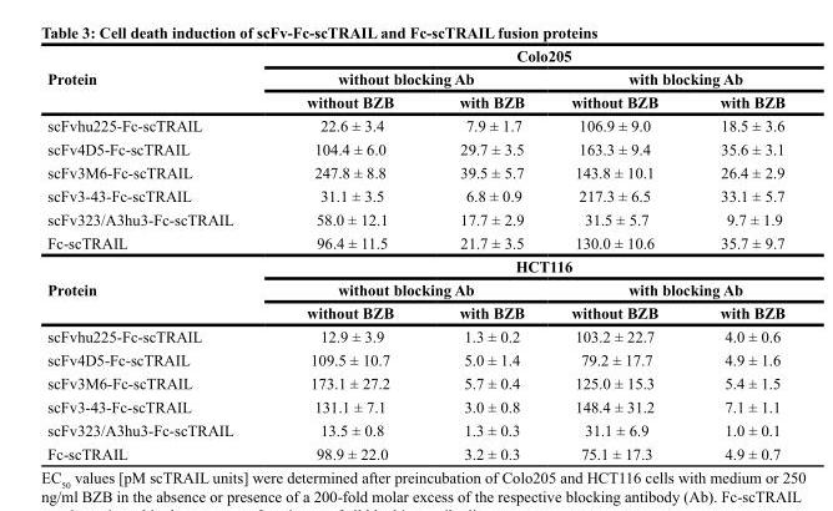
<table><thead><tr><td rowspan="3">Protein</td><td colspan="4">Colo205</td></tr><tr><td colspan="2">without blocking Ab</td><td colspan="2">with blocking Ab</td></tr><tr><td>without BZB</td><td>with BZB</td><td>without BZB</td><td>with BZB</td></tr></thead><tbody><tr><td>scFvhu225-Fc-scTRAIL</td><td>22.6 ± 3.4</td><td>7.9 ± 1.7</td><td>106.9 ± 9.0</td><td>18.5 ± 3.6</td></tr><tr><td>scFv4D5-Fc-scTRAIL</td><td>104.4 ± 6.0</td><td>29.7 ± 3.5</td><td>163.3 ± 9.4</td><td>35.6 ± 3.1</td></tr><tr><td>scFv3M6-Fc-scTRAIL</td><td>247.8 ± 8.8</td><td>39.5 ± 5.7</td><td>143.8 ± 10.1</td><td>26.4 ± 2.9</td></tr><tr><td>scFv3-43-Fc-scTRAIL</td><td>31.1 ± 3.5</td><td>6.8 ± 0.9</td><td>217.3 ± 6.5</td><td>33.1 ± 5.7</td></tr><tr><td>scFv323/A3hu3-Fc-scTRAIL</td><td>58.0 ± 12.1</td><td>17.7 ± 2.9</td><td>31.5 ± 5.7</td><td>9.7 ± 1.9</td></tr><tr><td>Fc-scTRAIL</td><td>96.4 ± 11.5</td><td>21.7 ± 3.5</td><td>130.0 ± 10.6</td><td>35.7 ± 9.7</td></tr><tr><td rowspan="3">Protein</td><td colspan="4">HCT116</td></tr><tr><td colspan="2">without blocking Ab</td><td colspan="2">with blocking Ab</td></tr><tr><td>without BZB</td><td>with BZB</td><td>without BZB</td><td>with BZB</td></tr><tr><td>scFvhu225-Fc-scTRAIL</td><td>12.9 ± 3.9</td><td>1.3 ± 0.2</td><td>103.2 ± 22.7</td><td>4.0 ± 0.6</td></tr><tr><td>scFv4D5-Fc-scTRAIL</td><td>109.5 ± 10.7</td><td>5.0 ± 1.4</td><td>79.2 ± 17.7</td><td>4.9 ± 1.6</td></tr><tr><td>scFv3M6-Fc-scTRAIL</td><td>173.1 ± 27.2</td><td>5.7 ± 0.4</td><td>125.0 ± 15.3</td><td>5.4 ± 1.5</td></tr><tr><td>scFv3-43-Fc-scTRAIL</td><td>131.1 ± 7.1</td><td>3.0 ± 0.8</td><td>148.4 ± 31.2</td><td>7.1 ± 1.1</td></tr><tr><td>scFv323/A3hu3-Fc-scTRAIL</td><td>13.5 ± 0.8</td><td>1.3 ± 0.3</td><td>31.1 ± 6.9</td><td>1.0 ± 0.1</td></tr><tr><td>Fc-scTRAIL</td><td>98.9 ± 22.0</td><td>3.2 ± 0.3</td><td>75.1 ± 17.3</td><td>4.9 ± 0.7</td></tr></tbody></table>